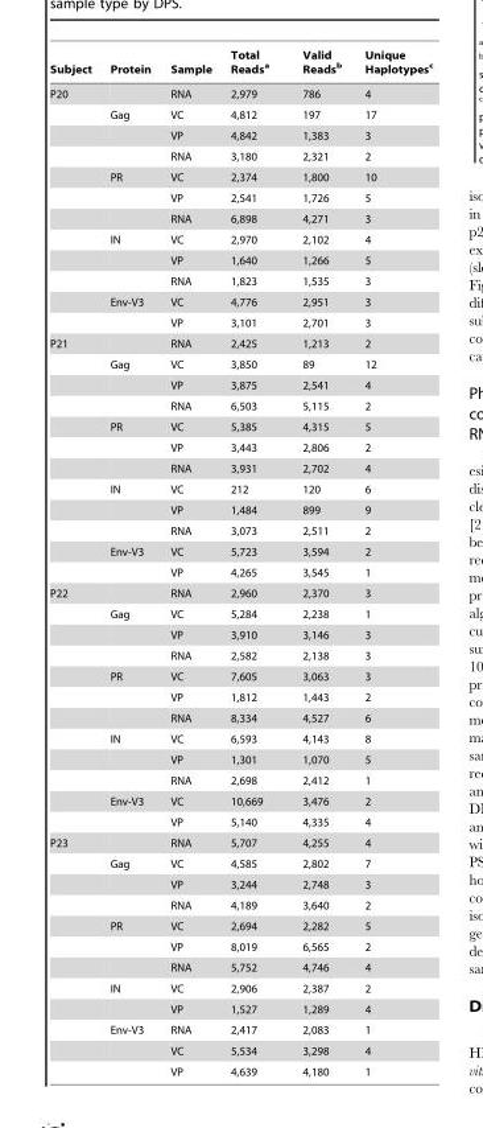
<table><thead><tr><td>Subject</td><td>Protein</td><td>Sample</td><td>Total Reads<sup>a</sup></td><td>Valid Reads<sup>b</sup></td><td>Unique Haplotypes<sup>c</sup></td></tr></thead><tbody><tr><td rowspan="12">P20</td><td></td><td>RNA</td><td>2,979</td><td>786</td><td>4</td></tr><tr><td>Gag</td><td>VC</td><td>4,812</td><td>197</td><td>17</td></tr><tr><td></td><td>VP</td><td>4,842</td><td>1,383</td><td>3</td></tr><tr><td></td><td>RNA</td><td>3,180</td><td>2,321</td><td>2</td></tr><tr><td>PR</td><td>VC</td><td>2,374</td><td>1,800</td><td>10</td></tr><tr><td></td><td>VP</td><td>2,541</td><td>1,726</td><td>5</td></tr><tr><td></td><td>RNA</td><td>6,898</td><td>4,271</td><td>3</td></tr><tr><td>IN</td><td>VC</td><td>2,970</td><td>2,102</td><td>4</td></tr><tr><td></td><td>VP</td><td>1,640</td><td>1,266</td><td>5</td></tr><tr><td></td><td>RNA</td><td>1,823</td><td>1,535</td><td>3</td></tr><tr><td>Env-V3</td><td>VC</td><td>4,776</td><td>2,951</td><td>3</td></tr><tr><td></td><td>VP</td><td>3,101</td><td>2,701</td><td>3</td></tr><tr><td rowspan="12">P21</td><td></td><td>RNA</td><td>2,425</td><td>1,213</td><td>2</td></tr><tr><td>Gag</td><td>VC</td><td>3,850</td><td>89</td><td>12</td></tr><tr><td></td><td>VP</td><td>3,875</td><td>2,541</td><td>4</td></tr><tr><td></td><td>RNA</td><td>6,503</td><td>5,115</td><td>2</td></tr><tr><td>PR</td><td>VC</td><td>5,385</td><td>4,315</td><td>5</td></tr><tr><td></td><td>VP</td><td>3,443</td><td>2,806</td><td>2</td></tr><tr><td></td><td>RNA</td><td>3,931</td><td>2,702</td><td>4</td></tr><tr><td>IN</td><td>VC</td><td>212</td><td>120</td><td>6</td></tr><tr><td></td><td>VP</td><td>1,484</td><td>899</td><td>9</td></tr><tr><td></td><td>RNA</td><td>3,073</td><td>2,511</td><td>2</td></tr><tr><td>Env-V3</td><td>VC</td><td>5,723</td><td>3,594</td><td>2</td></tr><tr><td></td><td>VP</td><td>4,265</td><td>3,545</td><td>1</td></tr><tr><td rowspan="12">P22</td><td></td><td>RNA</td><td>2,960</td><td>2,370</td><td>3</td></tr><tr><td>Gag</td><td>VC</td><td>5,284</td><td>2,238</td><td>1</td></tr><tr><td></td><td>VP</td><td>3,910</td><td>3,146</td><td>3</td></tr><tr><td></td><td>RNA</td><td>2,582</td><td>2,138</td><td>3</td></tr><tr><td>PR</td><td>VC</td><td>7,605</td><td>3,063</td><td>3</td></tr><tr><td></td><td>VP</td><td>1,812</td><td>1,443</td><td>2</td></tr><tr><td></td><td>RNA</td><td>8,334</td><td>4,527</td><td>6</td></tr><tr><td>IN</td><td>VC</td><td>6,593</td><td>4,143</td><td>8</td></tr><tr><td></td><td>VP</td><td>1,301</td><td>1,070</td><td>5</td></tr><tr><td></td><td>RNA</td><td>2,698</td><td>2,412</td><td>1</td></tr><tr><td>Env-V3</td><td>VC</td><td>10,669</td><td>3,476</td><td>2</td></tr><tr><td></td><td>VP</td><td>5,140</td><td>4,335</td><td>4</td></tr><tr><td rowspan="12">P23</td><td></td><td>RNA</td><td>5,707</td><td>4,255</td><td>4</td></tr><tr><td>Gag</td><td>VC</td><td>4,585</td><td>2,802</td><td>7</td></tr><tr><td></td><td>VP</td><td>3,244</td><td>2,748</td><td>3</td></tr><tr><td></td><td>RNA</td><td>4,189</td><td>3,640</td><td>2</td></tr><tr><td>PR</td><td>VC</td><td>2,694</td><td>2,282</td><td>5</td></tr><tr><td></td><td>VP</td><td>8,019</td><td>6,565</td><td>2</td></tr><tr><td></td><td>RNA</td><td>5,752</td><td>4,746</td><td>4</td></tr><tr><td>IN</td><td>VC</td><td>2,906</td><td>2,387</td><td>2</td></tr><tr><td></td><td>VP</td><td>1,527</td><td>1,289</td><td>4</td></tr><tr><td>Env-V3</td><td>RNA</td><td>2,417</td><td>2,083</td><td>1</td></tr><tr><td></td><td>VC</td><td>5,534</td><td>3,298</td><td>4</td></tr><tr><td></td><td>VP</td><td>4,639</td><td>4,180</td><td>1</td></tr></tbody></table>